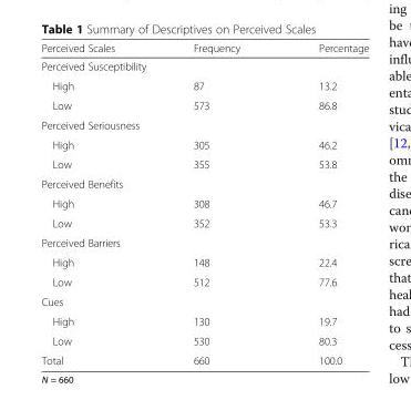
<table><thead><tr><td>Perceived Scales</td><td>Frequency</td><td>Percentage</td></tr></thead><tbody><tr><td colspan="3">Perceived Susceptibility</td></tr><tr><td>High</td><td>87</td><td>13.2</td></tr><tr><td>Low</td><td>573</td><td>86.8</td></tr><tr><td colspan="3">Perceived Seriousness</td></tr><tr><td>High</td><td>305</td><td>46.2</td></tr><tr><td>Low</td><td>355</td><td>53.8</td></tr><tr><td colspan="3">Perceived Benefits</td></tr><tr><td>High</td><td>308</td><td>46.7</td></tr><tr><td>Low</td><td>352</td><td>53.3</td></tr><tr><td colspan="3">Perceived Barriers</td></tr><tr><td>High</td><td>148</td><td>22.4</td></tr><tr><td>Low</td><td>512</td><td>77.6</td></tr><tr><td colspan="3">Cues</td></tr><tr><td>High</td><td>130</td><td>19.7</td></tr><tr><td>Low</td><td>530</td><td>80.3</td></tr><tr><td>Total</td><td>660</td><td>100.0</td></tr></tbody></table>